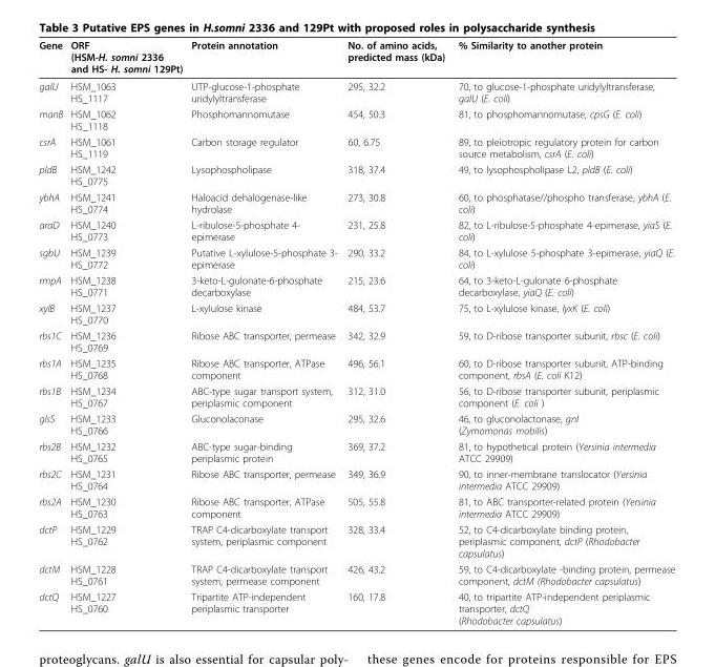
<table><thead><tr><td>Gene</td><td>ORF (HSM-H. somni 2336 and HS- H. somni 129Pt)</td><td>Protein annotation</td><td>No. of amino acids, predicted mass (kDa)</td><td>% Similarity to another protein</td></tr></thead><tbody><tr><td>galU</td><td>HSM_1063 HS_1117</td><td>UTP-glucose-1-phosphate uridylyltransferase</td><td>295, 32.2</td><td>70, to glucose-1-phosphate uridylyltransferase, galU (E. coli)</td></tr><tr><td>manB</td><td>HSM_1062 HS_1118</td><td>Phosphomannomutase</td><td>454, 50.3</td><td>81, to phosphomannomutase, cpsG (E. coli)</td></tr><tr><td>csrA</td><td>HSM_1061 HS_1119</td><td>Carbon storage regulator</td><td>60, 6.75</td><td>89, to pleiotropic regulatory protein for carbon source metabolism, csrA (E. coli)</td></tr><tr><td>pldB</td><td>HSM_1242 HS_0775</td><td>Lysophospholipase</td><td>318, 37.4</td><td>49, to lysophospholipase L2, pldB (E. coli)</td></tr><tr><td>ybhA</td><td>HSM_1241 HS_0774</td><td>Haloacid dehalogenase-like hydrolase</td><td>273, 30.8</td><td>60, to phosphatase//phospho transferase, ybhA (E. coli)</td></tr><tr><td>araD</td><td>HSM_1240 HS_0773</td><td>L-ribulose-5-phosphate 4- epimerase</td><td>231, 25.8</td><td>82, to L-ribulose-5-phosphate 4-epimerase, yiaS (E. coli)</td></tr><tr><td>sgbU</td><td>HSM_1239 HS_0772</td><td>Putative L-xylulose-5-phosphate 3- epimerase</td><td>290, 33.2</td><td>84, to L-xylulose 5-phosphate 3-epimerase, yiaQ (E. coli)</td></tr><tr><td>rmpA</td><td>HSM_1238 HS_0771</td><td>3-keto-L-gulonate-6-phosphate decarboxylase</td><td>215, 23.6</td><td>64, to 3-keto-L-gulonate 6-phosphate decarboxylase, yiaQ (E. coli)</td></tr><tr><td>xylB</td><td>HSM_1237 HS_0770</td><td>L-xylulose kinase</td><td>484, 53.7</td><td>75, to L-xylulose kinase, lyxK (E. coli)</td></tr><tr><td>rbs1C</td><td>HSM_1236 HS_0769</td><td>Ribose ABC transporter, permease</td><td>342, 32.9</td><td>59, to D-ribose transporter subunit, rbsc (E. coli)</td></tr><tr><td>rbs1A</td><td>HSM_1235 HS_0768</td><td>Ribose ABC transporter, ATPase component</td><td>496, 56.1</td><td>60, to D-ribose transporter subunit, ATP-binding component, rbsA (E. coli K12)</td></tr><tr><td>rbs1B</td><td>HSM_1234 HS_0767</td><td>ABC-type sugar transport system, periplasmic component</td><td>312, 31.0</td><td>56, to D-ribose transporter subunit, periplasmic component (E. coli )</td></tr><tr><td>glsS</td><td>HSM_1233 HS_0766</td><td>Gluconolaconase</td><td>295, 32.6</td><td>46, to gluconolactonase, gnl (Zymomonas mobilis)</td></tr><tr><td>rbs2B</td><td>HSM_1232 HS_0765</td><td>ABC-type sugar-binding periplasmic protein</td><td>369, 37.2</td><td>81, to hypothetical protein (Yersinia intermedia ATCC 29909)</td></tr><tr><td>rbs2C</td><td>HSM_1231 HS_0764</td><td>Ribose ABC transporter, permease</td><td>349, 36.9</td><td>90, to inner-membrane translocator (Yersinia intermedia ATCC 29909)</td></tr><tr><td>rbs2A</td><td>HSM_1230 HS_0763</td><td>Ribose ABC transporter, ATPase component</td><td>505, 55.8</td><td>81, to ABC transporter-related protein (Yersinia intermedia ATCC 29909)</td></tr><tr><td>dctP</td><td>HSM_1229 HS_0762</td><td>TRAP C4-dicarboxylate transport system, periplasmic component</td><td>328, 33.4</td><td>52, to C4-dicarboxylate binding protein, periplasmic component, dctP (Rhodobacter capsulatus)</td></tr><tr><td>dctM</td><td>HSM_1228 HS_0761</td><td>TRAP C4-dicarboxylate transport system, permease component</td><td>426, 43.2</td><td>59, to C4-dicarboxylate -binding protein, permease component, dctM (Rhodobacter capsulatus)</td></tr><tr><td>dctQ</td><td>HSM_1227 HS_0760</td><td>Tripartite ATP-independent periplasmic transporter</td><td>160, 17.8</td><td>40, to tripartite ATP-independent periplasmic transporter, dctQ (Rhodobacter capsulatus)</td></tr></tbody></table>